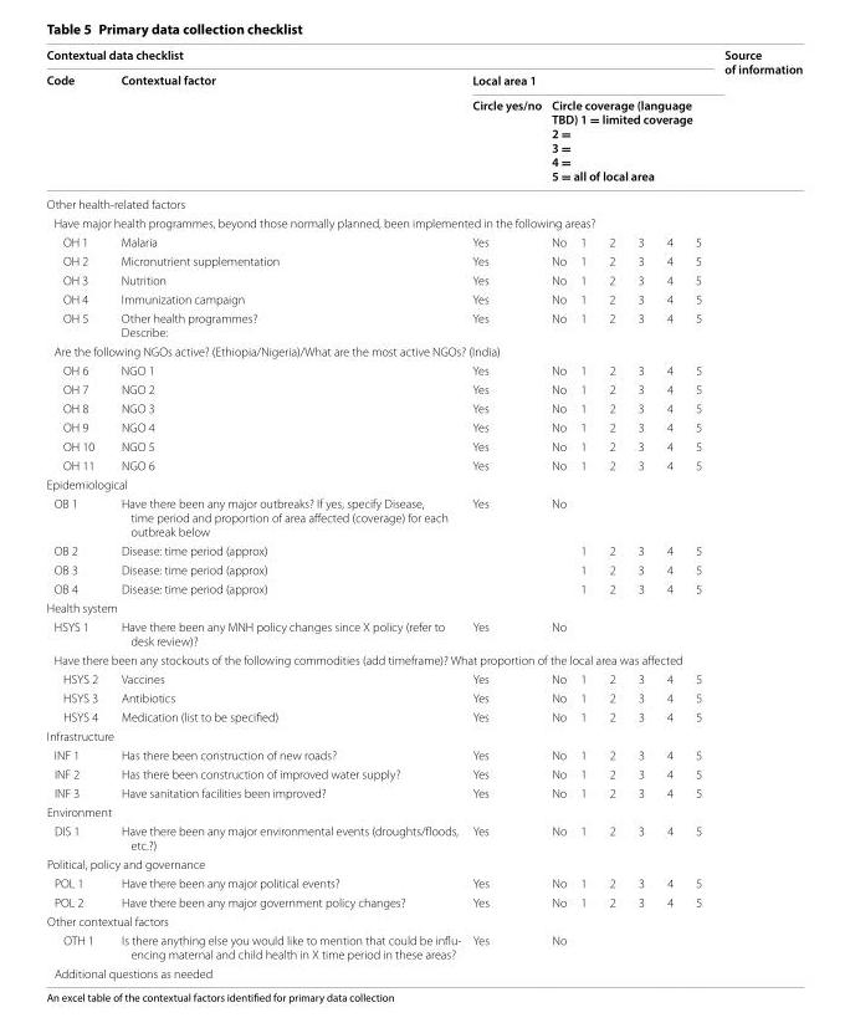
<table><thead><tr><td colspan="9">Contextual data checklist</td><td rowspan="3">Source of information</td></tr><tr><td rowspan="2">Code</td><td rowspan="2">Contextual factor</td><td colspan="7">Local area 1</td></tr><tr><td>Circle yes/no</td><td colspan="6">Circle coverage (language TBD) 1 = limited coverage 2 = 3 = 4 = 5 = all of local area</td></tr><tr><td rowspan="2" colspan="10">Other health-related factors Have major health programmes, beyond those normally planned, been implemented in the following areas?</td></tr><tr></tr><tr><td>OH 1</td><td>Malaria</td><td>Yes</td><td>No</td><td>1</td><td>2</td><td>3</td><td>4</td><td>5</td><td></td></tr></thead><tbody><tr><td>OH 2</td><td>Micronutrient supplementation</td><td>Yes</td><td>No</td><td>1</td><td>2</td><td>3</td><td>4</td><td>5</td><td></td></tr><tr><td>OH 3</td><td>Nutrition</td><td>Yes</td><td>No</td><td>1</td><td>2</td><td>3</td><td>4</td><td>5</td><td></td></tr><tr><td>OH 4</td><td>Immunization campaign</td><td>Yes</td><td>No</td><td>1</td><td>2</td><td>3</td><td>4</td><td>5</td><td></td></tr><tr><td>OH 5</td><td>Other health programmes? Describe:</td><td>Yes</td><td>No</td><td>1</td><td>2</td><td>3</td><td>4</td><td>5</td><td></td></tr><tr><td colspan="10">Are the following NGOs active? (Ethiopia/Nigeria)/What are the most active NGOs? (India)</td></tr><tr><td>OH 6</td><td>NGO 1</td><td>Yes</td><td>No</td><td>1</td><td>2</td><td>3</td><td>4</td><td>5</td><td></td></tr><tr><td>OH 7</td><td>NGO 2</td><td>Yes</td><td>No</td><td>1</td><td>2</td><td>3</td><td>4</td><td>5</td><td></td></tr><tr><td>OH 8</td><td>NGO 3</td><td>Yes</td><td>No</td><td>1</td><td>2</td><td>3</td><td>4</td><td>5</td><td></td></tr><tr><td>OH 9</td><td>NGO 4</td><td>Yes</td><td>No</td><td>1</td><td>2</td><td>3</td><td>4</td><td>5</td><td></td></tr><tr><td>OH 10</td><td>NGO 5</td><td>Yes</td><td>No</td><td>1</td><td>2</td><td>3</td><td>4</td><td>5</td><td></td></tr><tr><td>OH 11</td><td>NGO 6</td><td>Yes</td><td>No</td><td>1</td><td>2</td><td>3</td><td>4</td><td>5</td><td></td></tr><tr><td colspan="10">Epidemiological</td></tr><tr><td>OB 1</td><td>Have there been any major outbreaks? If yes, specify Disease, time period and proportion of area affected (coverage) for each outbreak below</td><td>Yes</td><td>No</td><td></td><td></td><td></td><td></td><td></td><td></td></tr><tr><td>OB 2</td><td>Disease: time period (approx)</td><td></td><td></td><td>1</td><td>2</td><td>3</td><td>4</td><td>5</td><td></td></tr><tr><td>OB 3</td><td>Disease: time period (approx)</td><td></td><td></td><td>1</td><td>2</td><td>3</td><td>4</td><td>5</td><td></td></tr><tr><td>OB 4</td><td>Disease: time period (approx)</td><td></td><td></td><td>1</td><td>2</td><td>3</td><td>4</td><td>5</td><td></td></tr><tr><td colspan="10">Health system</td></tr><tr><td>HSYS 1</td><td>Have there been any MNH policy changes since X policy (refer to desk review)?</td><td>Yes</td><td>No</td><td></td><td></td><td></td><td></td><td></td><td></td></tr><tr><td colspan="10">Have there been any stockouts of the following commodities (add timeframe)? What proportion of the local area was affected</td></tr><tr><td>HSYS 2</td><td>Vaccines</td><td>Yes</td><td>No</td><td>1</td><td>2</td><td>3</td><td>4</td><td>5</td><td></td></tr><tr><td>HSYS 3</td><td>Antibiotics</td><td>Yes</td><td>No</td><td>1</td><td>2</td><td>3</td><td>4</td><td>5</td><td></td></tr><tr><td>HSYS 4</td><td>Medication (list to be specified)</td><td>Yes</td><td>No</td><td>1</td><td>2</td><td>3</td><td>4</td><td>5</td><td></td></tr><tr><td colspan="10">Infrastructure</td></tr><tr><td>INF 1</td><td>Has there been construction of new roads?</td><td>Yes</td><td>No</td><td>1</td><td>2</td><td>3</td><td>4</td><td>5</td><td></td></tr><tr><td>INF 2</td><td>Has there been construction of improved water supply?</td><td>Yes</td><td>No</td><td>1</td><td>2</td><td>3</td><td>4</td><td>5</td><td></td></tr><tr><td>INF 3</td><td>Have sanitation facilities been improved?</td><td>Yes</td><td>No</td><td>1</td><td>2</td><td>3</td><td>4</td><td>5</td><td></td></tr><tr><td colspan="10">Environment</td></tr><tr><td>DIS 1</td><td>Have there been any major environmental events (droughts/floods, etc.?)</td><td>Yes</td><td>No</td><td>1</td><td>2</td><td>3</td><td>4</td><td>5</td><td></td></tr><tr><td colspan="10">Political, policy and governance</td></tr><tr><td>POL 1</td><td>Have there been any major political events?</td><td>Yes</td><td>No</td><td>1</td><td>2</td><td>3</td><td>4</td><td>5</td><td></td></tr><tr><td>POL 2</td><td>Have there been any major government policy changes?</td><td>Yes</td><td>No</td><td>1</td><td>2</td><td>3</td><td>4</td><td>5</td><td></td></tr><tr><td colspan="10">Other contextual factors</td></tr><tr><td>OTH 1</td><td>Is there anything else you would like to mention that could be influ- encing maternal and child health in X time period in these areas?</td><td>Yes</td><td>No</td><td colspan="5"></td><td></td></tr><tr><td colspan="10">Additional questions as needed</td></tr></tbody></table>